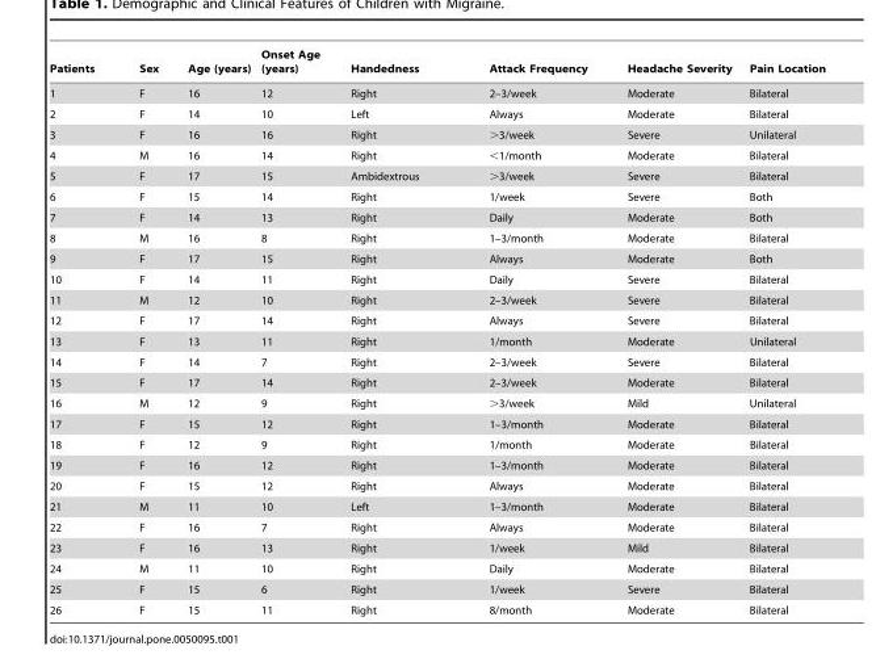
<table><thead><tr><td>Patients</td><td>Sex</td><td>Age (years)</td><td>Onset Age (years)</td><td>Handedness</td><td>Attack Frequency</td><td>Headache Severity</td><td>Pain Location</td></tr></thead><tbody><tr><td>1</td><td>F</td><td>16</td><td>12</td><td>Right</td><td>2–3/week</td><td>Moderate</td><td>Bilateral</td></tr><tr><td>2</td><td>F</td><td>14</td><td>10</td><td>Left</td><td>Always</td><td>Moderate</td><td>Bilateral</td></tr><tr><td>3</td><td>F</td><td>16</td><td>16</td><td>Right</td><td>&gt;3/week</td><td>Severe</td><td>Unilateral</td></tr><tr><td>4</td><td>M</td><td>16</td><td>14</td><td>Right</td><td>&lt;1/month</td><td>Moderate</td><td>Bilateral</td></tr><tr><td>5</td><td>F</td><td>17</td><td>15</td><td>Ambidextrous</td><td>&gt;3/week</td><td>Severe</td><td>Bilateral</td></tr><tr><td>6</td><td>F</td><td>15</td><td>14</td><td>Right</td><td>1/week</td><td>Severe</td><td>Both</td></tr><tr><td>7</td><td>F</td><td>14</td><td>13</td><td>Right</td><td>Daily</td><td>Moderate</td><td>Both</td></tr><tr><td>8</td><td>M</td><td>16</td><td>8</td><td>Right</td><td>1–3/month</td><td>Moderate</td><td>Bilateral</td></tr><tr><td>9</td><td>F</td><td>17</td><td>15</td><td>Right</td><td>Always</td><td>Moderate</td><td>Both</td></tr><tr><td>10</td><td>F</td><td>14</td><td>11</td><td>Right</td><td>Daily</td><td>Severe</td><td>Bilateral</td></tr><tr><td>11</td><td>M</td><td>12</td><td>10</td><td>Right</td><td>2–3/week</td><td>Severe</td><td>Bilateral</td></tr><tr><td>12</td><td>F</td><td>17</td><td>14</td><td>Right</td><td>Always</td><td>Severe</td><td>Bilateral</td></tr><tr><td>13</td><td>F</td><td>13</td><td>11</td><td>Right</td><td>1/month</td><td>Moderate</td><td>Unilateral</td></tr><tr><td>14</td><td>F</td><td>14</td><td>7</td><td>Right</td><td>2–3/week</td><td>Severe</td><td>Bilateral</td></tr><tr><td>15</td><td>F</td><td>17</td><td>14</td><td>Right</td><td>2–3/week</td><td>Moderate</td><td>Bilateral</td></tr><tr><td>16</td><td>M</td><td>12</td><td>9</td><td>Right</td><td>&gt;3/week</td><td>Mild</td><td>Unilateral</td></tr><tr><td>17</td><td>F</td><td>15</td><td>12</td><td>Right</td><td>1–3/month</td><td>Moderate</td><td>Bilateral</td></tr><tr><td>18</td><td>F</td><td>12</td><td>9</td><td>Right</td><td>1/month</td><td>Moderate</td><td>Bilateral</td></tr><tr><td>19</td><td>F</td><td>16</td><td>12</td><td>Right</td><td>1–3/month</td><td>Moderate</td><td>Bilateral</td></tr><tr><td>20</td><td>F</td><td>15</td><td>12</td><td>Right</td><td>Always</td><td>Moderate</td><td>Bilateral</td></tr><tr><td>21</td><td>M</td><td>11</td><td>10</td><td>Left</td><td>1–3/month</td><td>Moderate</td><td>Bilateral</td></tr><tr><td>22</td><td>F</td><td>16</td><td>7</td><td>Right</td><td>Always</td><td>Moderate</td><td>Bilateral</td></tr><tr><td>23</td><td>F</td><td>16</td><td>13</td><td>Right</td><td>1/week</td><td>Mild</td><td>Bilateral</td></tr><tr><td>24</td><td>M</td><td>11</td><td>10</td><td>Right</td><td>Daily</td><td>Moderate</td><td>Bilateral</td></tr><tr><td>25</td><td>F</td><td>15</td><td>6</td><td>Right</td><td>1/week</td><td>Severe</td><td>Bilateral</td></tr><tr><td>26</td><td>F</td><td>15</td><td>11</td><td>Right</td><td>8/month</td><td>Moderate</td><td>Bilateral</td></tr></tbody></table>